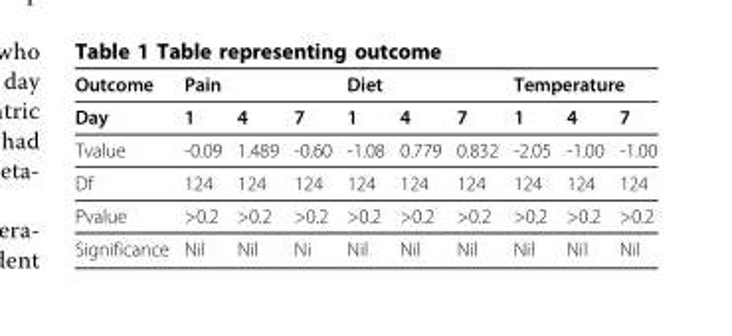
<table><thead><tr><td rowspan="2">Outcome Day</td><td colspan="3">Pain</td><td colspan="3">Diet</td><td colspan="3">Temperature</td></tr><tr><td>1</td><td>4</td><td>7</td><td>1</td><td>4</td><td>7</td><td>1</td><td>4</td><td>7</td></tr></thead><tbody><tr><td>Tvalue</td><td>-0.09</td><td>1.489</td><td>-0.60</td><td>-1.08</td><td>0.779</td><td>0.832</td><td>-2.05</td><td>-1.00</td><td>-1.00</td></tr><tr><td>Df</td><td>124</td><td>124</td><td>124</td><td>124</td><td>124</td><td>124</td><td>124</td><td>124</td><td>124</td></tr><tr><td>Pvalue</td><td>&gt;0.2</td><td>&gt;0.2</td><td>&gt;0.2</td><td>&gt;0.2</td><td>&gt;0.2</td><td>&gt;0.2</td><td>&gt;0.2</td><td>&gt;0.2</td><td>&gt;0.2</td></tr><tr><td>Significance</td><td>Nil</td><td>Nil</td><td>Ni</td><td>Nil</td><td>Nil</td><td>Nil</td><td>Nil</td><td>Nil</td><td>Nil</td></tr></tbody></table>